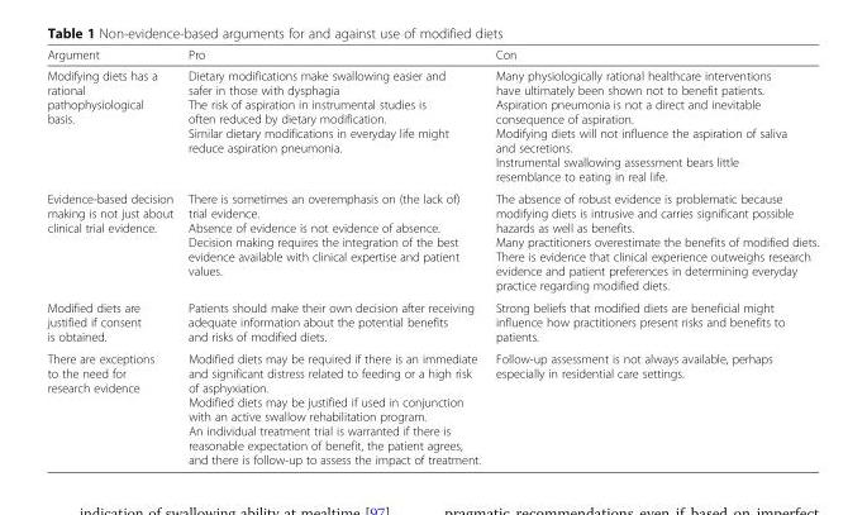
<table><thead><tr><td>Argument</td><td>Pro</td><td>Con</td></tr></thead><tbody><tr><td>Modifying diets has a rational pathophysiological basis.</td><td>Dietary modifications make swallowing easier and safer in those with dysphagia The risk of aspiration in instrumental studies is often reduced by dietary modification. Similar dietary modifications in everyday life might reduce aspiration pneumonia.</td><td>Many physiologically rational healthcare interventions have ultimately been shown not to benefit patients. Aspiration pneumonia is not a direct and inevitable consequence of aspiration. Modifying diets will not influence the aspiration of saliva and secretions. Instrumental swallowing assessment bears little resemblance to eating in real life.</td></tr><tr><td>Evidence-based decision making is not just about clinical trial evidence.</td><td>There is sometimes an overemphasis on (the lack of) trial evidence. Absence of evidence is not evidence of absence. Decision making requires the integration of the best evidence available with clinical expertise and patient values.</td><td>The absence of robust evidence is problematic because modifying diets is intrusive and carries significant possible hazards as well as benefits. Many practitioners overestimate the benefits of modified diets. There is evidence that clinical experience outweighs research evidence and patient preferences in determining everyday practice regarding modified diets.</td></tr><tr><td>Modified diets are justified if consent is obtained.</td><td>Patients should make their own decision after receiving adequate information about the potential benefits and risks of modified diets.</td><td>Strong beliefs that modified diets are beneficial might influence how practitioners present risks and benefits to patients.</td></tr><tr><td>There are exceptions to the need for research evidence</td><td>Modified diets may be required if there is an immediate and significant distress related to feeding or a high risk of asphyxiation. Modified diets may be justified if used in conjunction with an active swallow rehabilitation program. An individual treatment trial is warranted if there is reasonable expectation of benefit, the patient agrees, and there is follow-up to assess the impact of treatment.</td><td>Follow-up assessment is not always available, perhaps especially in residential care settings.</td></tr></tbody></table>